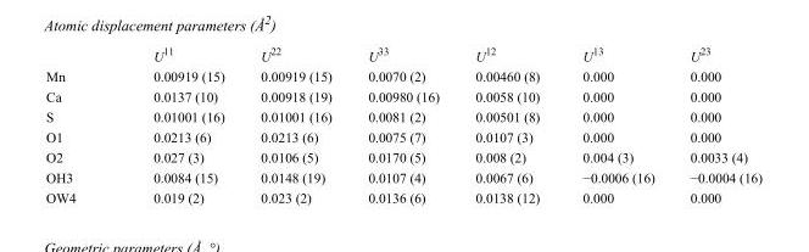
<table><thead><tr><td></td><td>U<sup>11</sup></td><td>U<sup>22</sup></td><td>U<sup>33</sup></td><td>U<sup>12</sup></td><td>U<sup>13</sup></td><td>U<sup>23</sup></td></tr></thead><tbody><tr><td>Mn</td><td>0.00919 (15)</td><td>0.00919 (15)</td><td>0.0070 (2)</td><td>0.00460 (8)</td><td>0.000</td><td>0.000</td></tr><tr><td>Ca</td><td>0.0137 (10)</td><td>0.00918 (19)</td><td>0.00980 (16)</td><td>0.0058 (10)</td><td>0.000</td><td>0.000</td></tr><tr><td>S</td><td>0.01001 (16)</td><td>0.01001 (16)</td><td>0.0081 (2)</td><td>0.00501 (8)</td><td>0.000</td><td>0.000</td></tr><tr><td>O1</td><td>0.0213 (6)</td><td>0.0213 (6)</td><td>0.0075 (7)</td><td>0.0107 (3)</td><td>0.000</td><td>0.000</td></tr><tr><td>O2</td><td>0.027 (3)</td><td>0.0106 (5)</td><td>0.0170 (5)</td><td>0.008 (2)</td><td>0.004 (3)</td><td>0.0033 (4)</td></tr><tr><td>OH3</td><td>0.0084 (15)</td><td>0.0148 (19)</td><td>0.0107 (4)</td><td>0.0067 (6)</td><td>−0.0006 (16)</td><td>−0.0004 (16)</td></tr><tr><td>OW4</td><td>0.019 (2)</td><td>0.023 (2)</td><td>0.0136 (6)</td><td>0.0138 (12)</td><td>0.000</td><td>0.000</td></tr></tbody></table>